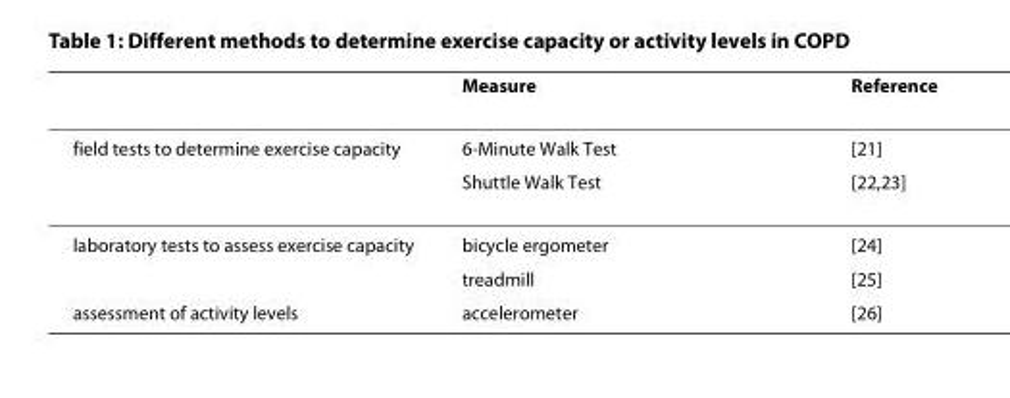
<table><thead><tr><td></td><td>Measure</td><td>Reference</td></tr></thead><tbody><tr><td rowspan="2">field tests to determine exercise capacity</td><td>6-Minute Walk Test</td><td>[21]</td></tr><tr><td>Shuttle Walk Test</td><td>[22,23]</td></tr><tr><td rowspan="2">laboratory tests to assess exercise capacity</td><td>bicycle ergometer</td><td>[24]</td></tr><tr><td>treadmill</td><td>[25]</td></tr><tr><td>assessment of activity levels</td><td>accelerometer</td><td>[26]</td></tr></tbody></table>